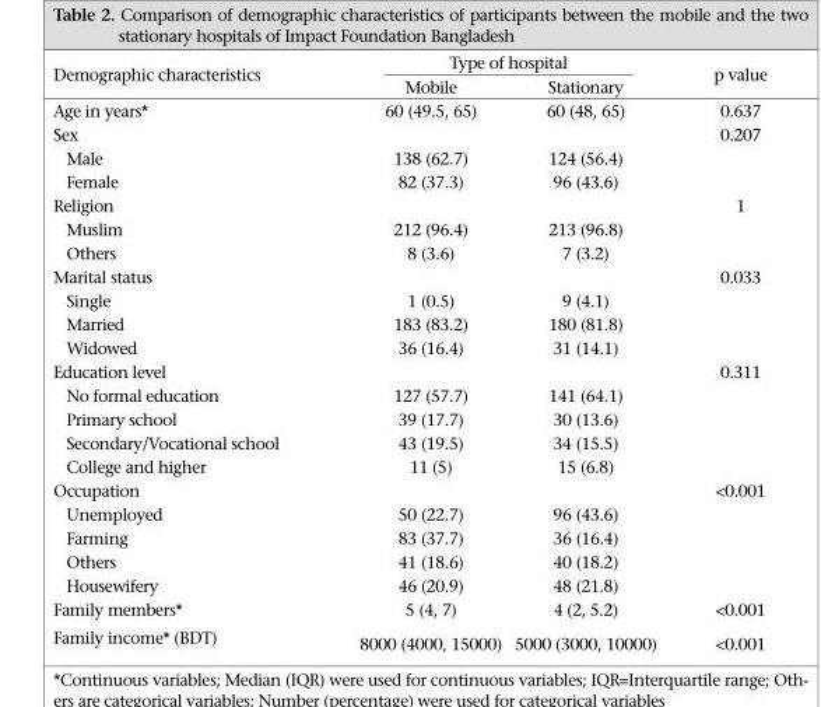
<table><thead><tr><td rowspan="2">Demographic characteristics</td><td colspan="2">Type of hospital</td><td rowspan="2">p value</td></tr><tr><td>Mobile</td><td>Stationary</td></tr></thead><tbody><tr><td>Age in years*</td><td>60 (49.5, 65)</td><td>60 (48, 65)</td><td>0.637</td></tr><tr><td>Sex</td><td></td><td></td><td>0.207</td></tr><tr><td>Male</td><td>138 (62.7)</td><td>124 (56.4)</td><td></td></tr><tr><td>Female</td><td>82 (37.3)</td><td>96 (43.6)</td><td></td></tr><tr><td>Religion</td><td></td><td></td><td>1</td></tr><tr><td>Muslim</td><td>212 (96.4)</td><td>213 (96.8)</td><td></td></tr><tr><td>Others</td><td>8 (3.6)</td><td>7 (3.2)</td><td></td></tr><tr><td>Marital status</td><td></td><td></td><td>0.033</td></tr><tr><td>Single</td><td>1 (0.5)</td><td>9 (4.1)</td><td></td></tr><tr><td>Married</td><td>183 (83.2)</td><td>180 (81.8)</td><td></td></tr><tr><td>Widowed</td><td>36 (16.4)</td><td>31 (14.1)</td><td></td></tr><tr><td>Education level</td><td></td><td></td><td>0.311</td></tr><tr><td>No formal education</td><td>127 (57.7)</td><td>141 (64.1)</td><td></td></tr><tr><td>Primary school</td><td>39 (17.7)</td><td>30 (13.6)</td><td></td></tr><tr><td>Secondary/Vocational school</td><td>43 (19.5)</td><td>34 (15.5)</td><td></td></tr><tr><td>College and higher</td><td>11 (5)</td><td>15 (6.8)</td><td></td></tr><tr><td>Occupation</td><td></td><td></td><td>&lt;0.001</td></tr><tr><td>Unemployed</td><td>50 (22.7)</td><td>96 (43.6)</td><td></td></tr><tr><td>Farming</td><td>83 (37.7)</td><td>36 (16.4)</td><td></td></tr><tr><td>Others</td><td>41 (18.6)</td><td>40 (18.2)</td><td></td></tr><tr><td>Housewifery</td><td>46 (20.9)</td><td>48 (21.8)</td><td></td></tr><tr><td>Family members*</td><td>5 (4, 7)</td><td>4 (2, 5.2)</td><td>&lt;0.001</td></tr><tr><td>Family income* (BDT)</td><td>8000 (4000, 15000)</td><td>5000 (3000, 10000)</td><td>&lt;0.001</td></tr></tbody></table>